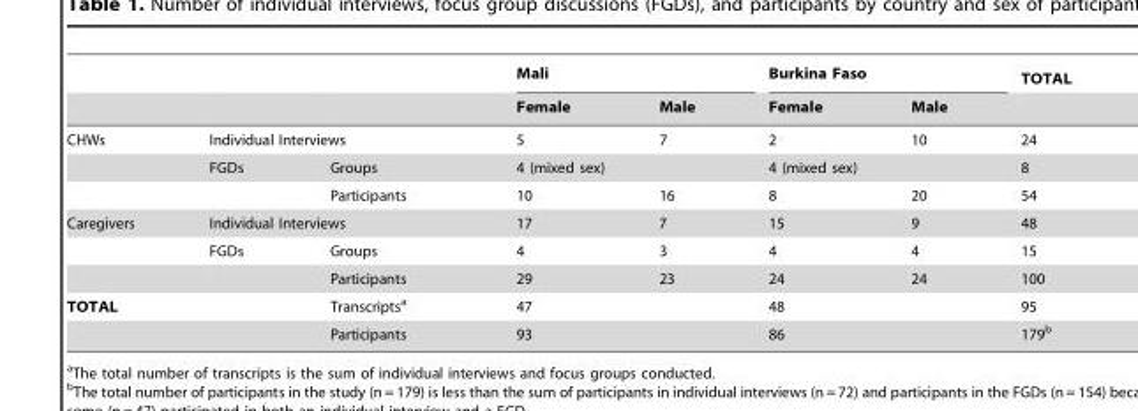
<table><thead><tr><td rowspan="2"></td><td rowspan="2"></td><td rowspan="2"></td><td colspan="2">Mali</td><td colspan="2">Burkina Faso</td><td rowspan="2">TOTAL</td></tr><tr><td>Female</td><td>Male</td><td>Female</td><td>Male</td></tr></thead><tbody><tr><td rowspan="3">CHWs</td><td colspan="2">Individual Interviews</td><td>5</td><td>7</td><td>2</td><td>10</td><td>24</td></tr><tr><td>FGDs</td><td>Groups</td><td colspan="2">4 (mixed sex)</td><td colspan="2">4 (mixed sex)</td><td>8</td></tr><tr><td></td><td>Participants</td><td>10</td><td>16</td><td>8</td><td>20</td><td>54</td></tr><tr><td rowspan="3">Caregivers</td><td colspan="2">Individual Interviews</td><td>17</td><td>7</td><td>15</td><td>9</td><td>48</td></tr><tr><td>FGDs</td><td>Groups</td><td>4</td><td>3</td><td>4</td><td>4</td><td>15</td></tr><tr><td></td><td>Participants</td><td>29</td><td>23</td><td>24</td><td>24</td><td>100</td></tr><tr><td rowspan="2" colspan="2">TOTAL</td><td>Transcripts<sup>a</sup></td><td colspan="2">47</td><td colspan="2">48</td><td>95</td></tr><tr><td>Participants</td><td colspan="2">93</td><td colspan="2">86</td><td>179<sup>b</sup></td></tr></tbody></table>